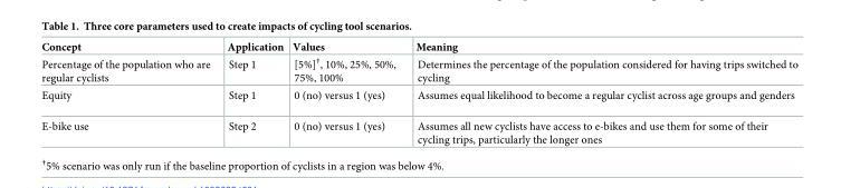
<table><thead><tr><td>Concept</td><td>Application</td><td>Values</td><td>Meaning</td></tr></thead><tbody><tr><td>Percentage of the population who are regular cyclists</td><td>Step 1</td><td>[5%]<sup>†</sup>, 10%, 25%, 50%, 75%, 100%</td><td>Determines the percentage of the population considered for having trips switched to cycling</td></tr><tr><td>Equity</td><td>Step 1</td><td>0 (no) versus 1 (yes)</td><td>Assumes equal likelihood to become a regular cyclist across age groups and genders</td></tr><tr><td>E-bike use</td><td>Step 2</td><td>0 (no) versus 1 (yes)</td><td>Assumes all new cyclists have access to e-bikes and use them for some of their cycling trips, particularly the longer ones</td></tr></tbody></table>